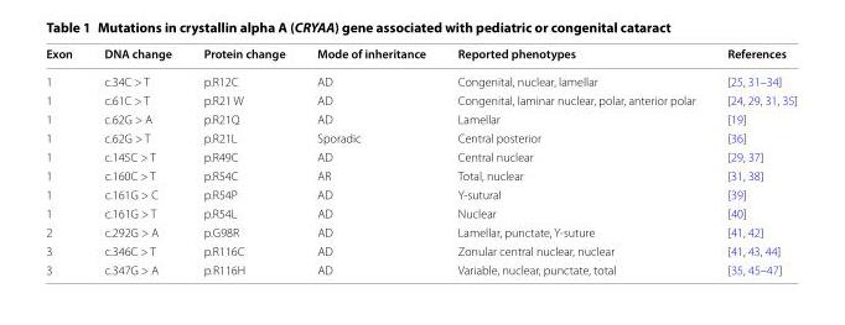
<table><thead><tr><td>Exon</td><td>DNA change</td><td>Protein change</td><td>Mode of inheritance</td><td>Reported phenotypes</td><td>References</td></tr></thead><tbody><tr><td>1</td><td>c.34C &gt; T</td><td>p.R12C</td><td>AD</td><td>Congenital, nuclear, lamellar</td><td>[25, 31–34]</td></tr><tr><td>1</td><td>c.61C &gt; T</td><td>p.R21 W</td><td>AD</td><td>Congenital, laminar nuclear, polar, anterior polar</td><td>[24, 29, 31, 35]</td></tr><tr><td>1</td><td>c.62G &gt; A</td><td>p.R21Q</td><td>AD</td><td>Lamellar</td><td>[19]</td></tr><tr><td>1</td><td>c.62G &gt; T</td><td>p.R21L</td><td>Sporadic</td><td>Central posterior</td><td>[36]</td></tr><tr><td>1</td><td>c.145C &gt; T</td><td>p.R49C</td><td>AD</td><td>Central nuclear</td><td>[29, 37]</td></tr><tr><td>1</td><td>c.160C &gt; T</td><td>p.R54C</td><td>AR</td><td>Total, nuclear</td><td>[31, 38]</td></tr><tr><td>1</td><td>c.161G &gt; C</td><td>p.R54P</td><td>AD</td><td>Y-sutural</td><td>[39]</td></tr><tr><td>1</td><td>c.161G &gt; T</td><td>p.R54L</td><td>AD</td><td>Nuclear</td><td>[40]</td></tr><tr><td>2</td><td>c.292G &gt; A</td><td>p.G98R</td><td>AD</td><td>Lamellar, punctate, Y-suture</td><td>[41, 42]</td></tr><tr><td>3</td><td>c.346C &gt; T</td><td>p.R116C</td><td>AD</td><td>Zonular central nuclear, nuclear</td><td>[41, 43, 44]</td></tr><tr><td>3</td><td>c.347G &gt; A</td><td>p.R116H</td><td>AD</td><td>Variable, nuclear, punctate, total</td><td>[35, 45–47]</td></tr></tbody></table>